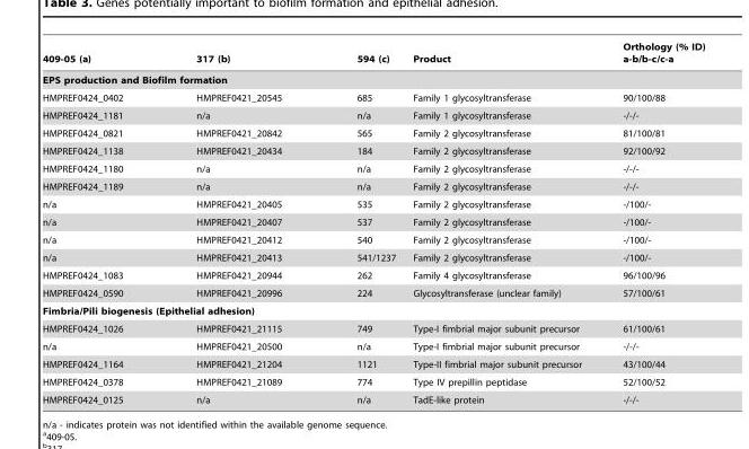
<table><thead><tr><td>409-05 (a)</td><td>317 (b)</td><td>594 (c)</td><td>Product</td><td>Orthology (% ID) a-b/b-c/c-a</td></tr></thead><tbody><tr><td colspan="5">EPS production and Biofilm formation</td></tr><tr><td>HMPREF0424_0402</td><td>HMPREF0421_20545</td><td>685</td><td>Family 1 glycosyltransferase</td><td>90/100/88</td></tr><tr><td>HMPREF0424_1181</td><td>n/a</td><td>n/a</td><td>Family 1 glycosyltransferase</td><td>-/-/-</td></tr><tr><td>HMPREF0424_0821</td><td>HMPREF0421_20842</td><td>565</td><td>Family 2 glycosyltransferase</td><td>81/100/81</td></tr><tr><td>HMPREF0424_1138</td><td>HMPREF0421_20434</td><td>184</td><td>Family 2 glycosyltransferase</td><td>92/100/92</td></tr><tr><td>HMPREF0424_1180</td><td>n/a</td><td>n/a</td><td>Family 2 glycosyltransferase</td><td>-/-/-</td></tr><tr><td>HMPREF0424_1189</td><td>n/a</td><td>n/a</td><td>Family 2 glycosyltransferase</td><td>-/-/-</td></tr><tr><td>n/a</td><td>HMPREF0421_20405</td><td>535</td><td>Family 2 glycosyltransferase</td><td>-/100/-</td></tr><tr><td>n/a</td><td>HMPREF0421_20407</td><td>537</td><td>Family 2 glycosyltransferase</td><td>-/100/-</td></tr><tr><td>n/a</td><td>HMPREF0421_20412</td><td>540</td><td>Family 2 glycosyltransferase</td><td>-/100/-</td></tr><tr><td>n/a</td><td>HMPREF0421_20413</td><td>541/1237</td><td>Family 2 glycosyltransferase</td><td>-/100/-</td></tr><tr><td>HMPREF0424_1083</td><td>HMPREF0421_20944</td><td>262</td><td>Family 4 glycosyltransferase</td><td>96/100/96</td></tr><tr><td>HMPREF0424_0590</td><td>HMPREF0421_20996</td><td>224</td><td>Glycosyltransferase (unclear family)</td><td>57/100/61</td></tr><tr><td colspan="5">Fimbria/Pili biogenesis (Epithelial adhesion)</td></tr><tr><td>HMPREF0424_1026</td><td>HMPREF0421_21115</td><td>749</td><td>Type-I fimbrial major subunit precursor</td><td>61/100/61</td></tr><tr><td>n/a</td><td>HMPREF0421_20500</td><td>n/a</td><td>Type-I fimbrial major subunit precursor</td><td>-/-/-</td></tr><tr><td>HMPREF0424_1164</td><td>HMPREF0421_21204</td><td>1121</td><td>Type-II fimbrial major subunit precursor</td><td>43/100/44</td></tr><tr><td>HMPREF0424_0378</td><td>HMPREF0421_21089</td><td>774</td><td>Type IV prepillin peptidase</td><td>52/100/52</td></tr><tr><td>HMPREF0424_0125</td><td>n/a</td><td>n/a</td><td>TadE-like protein</td><td>-/-/-</td></tr></tbody></table>